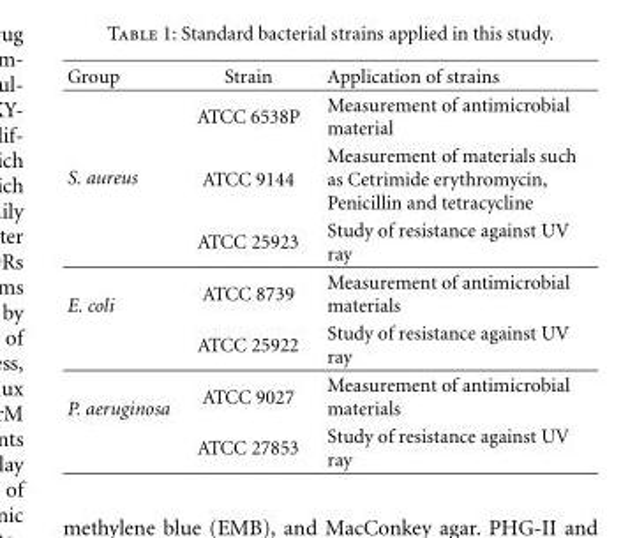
<table><thead><tr><td>Group</td><td>Strain</td><td>Application of strains</td></tr></thead><tbody><tr><td rowspan="3">S. aureus</td><td>ATCC 6538P</td><td>Measurement of antimicrobial material</td></tr><tr><td>ATCC 9144</td><td>Measurement of materials such as Cetrimide erythromycin, Penicillin and tetracycline</td></tr><tr><td>ATCC 25923</td><td>Study of resistance against UV ray</td></tr><tr><td rowspan="2">E. coli</td><td>ATCC 8739</td><td>Measurement of antimicrobial materials</td></tr><tr><td>ATCC 25922</td><td>Study of resistance against UV ray</td></tr><tr><td rowspan="2">P. aeruginosa</td><td>ATCC 9027</td><td>Measurement of antimicrobial materials</td></tr><tr><td>ATCC 27853</td><td>Study of resistance against UV ray</td></tr></tbody></table>